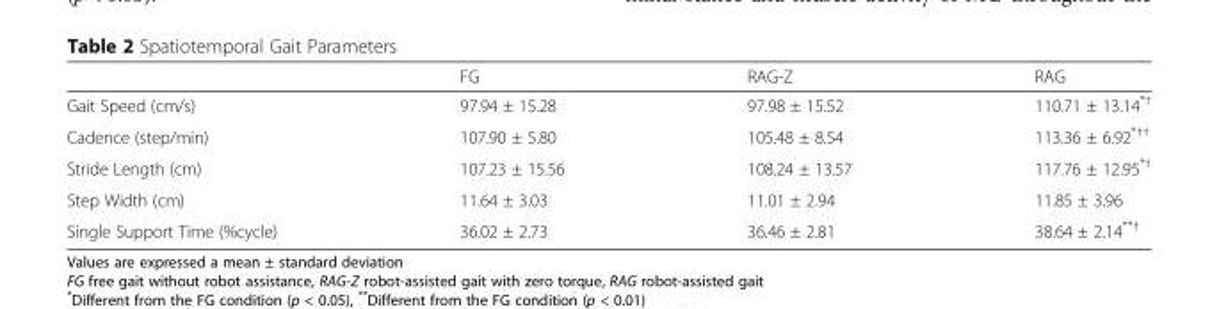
<table><thead><tr><td></td><td>FG</td><td>RAG-Z</td><td>RAG</td></tr></thead><tbody><tr><td>Gait Speed (cm/s)</td><td>97.94 ± 15.28</td><td>97.98 ± 15.52</td><td>110.71 ± 13.14<sup>*†</sup></td></tr><tr><td>Cadence (step/min)</td><td>107.90 ± 5.80</td><td>105.48 ± 8.54</td><td>113.36 ± 6.92<sup>*††</sup></td></tr><tr><td>Stride Length (cm)</td><td>107.23 ± 15.56</td><td>108.24 ± 13.57</td><td>117.76 ± 12.95<sup>*†</sup></td></tr><tr><td>Step Width (cm)</td><td>11.64 ± 3.03</td><td>11.01 ± 2.94</td><td>11.85 ± 3.96</td></tr><tr><td>Single Support Time (%cycle)</td><td>36.02 ± 2.73</td><td>36.46 ± 2.81</td><td>38.64 ± 2.14<sup>**†</sup></td></tr></tbody></table>